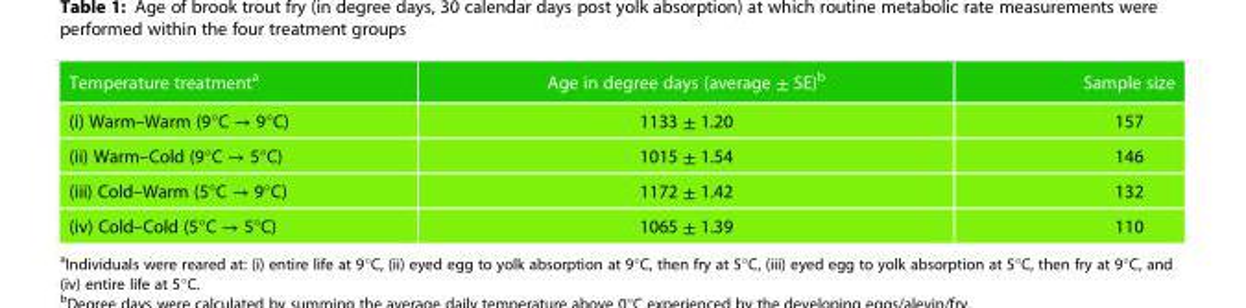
<table><thead><tr><td>Temperature treatment<sup>a</sup></td><td>Age in degree days (average ± SE)<sup>b</sup></td><td>Sample size</td></tr></thead><tbody><tr><td>(i) Warm–Warm (9°C → 9°C)</td><td>1133 ± 1.20</td><td>157</td></tr><tr><td>(ii) Warm–Cold (9°C → 5°C)</td><td>1015 ± 1.54</td><td>146</td></tr><tr><td>(iii) Cold–Warm (5°C → 9°C)</td><td>1172 ± 1.42</td><td>132</td></tr><tr><td>(iv) Cold–Cold (5°C → 5°C)</td><td>1065 ± 1.39</td><td>110</td></tr></tbody></table>